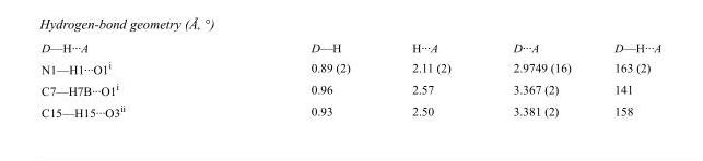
<table><tbody><tr><td>D—H···A</td><td>D—H</td><td>H···A</td><td>D···A</td><td>D—H···A</td></tr><tr><td>N1—H1···O1<sup>i</sup></td><td>0.89 (2)</td><td>2.11 (2)</td><td>2.9749 (16)</td><td>163 (2)</td></tr><tr><td>C7—H7B···O1<sup>i</sup></td><td>0.96</td><td>2.57</td><td>3.367 (2)</td><td>141</td></tr><tr><td>C15—H15···O3<sup>ii</sup></td><td>0.93</td><td>2.50</td><td>3.381 (2)</td><td>158</td></tr></tbody></table>